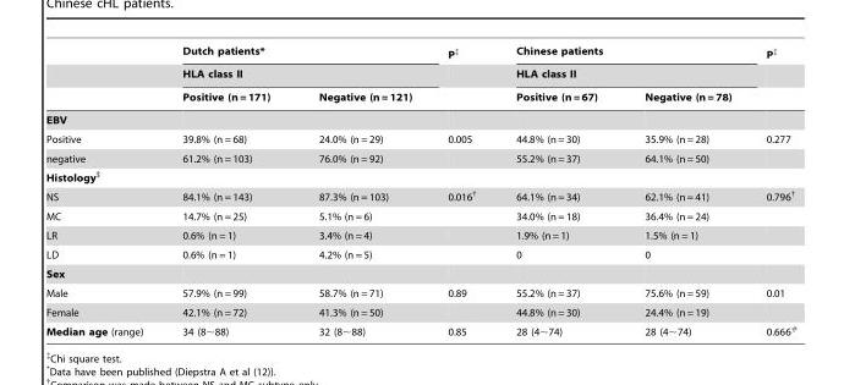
<table><thead><tr><td rowspan="3"></td><td rowspan="2" colspan="2">Dutch patients* HLA class II</td><td rowspan="3">P‡</td><td rowspan="2" colspan="2">Chinese patients HLA class II</td><td rowspan="3">P‡</td></tr><tr></tr><tr><td>Positive (n = 171)</td><td>Negative (n = 121)</td><td>Positive (n = 67)</td><td>Negative (n = 78)</td></tr></thead><tbody><tr><td colspan="7">EBV</td></tr><tr><td>Positive</td><td>39.8% (n = 68)</td><td>24.0% (n = 29)</td><td>0.005</td><td>44.8% (n = 30)</td><td>35.9% (n = 28)</td><td>0.277</td></tr><tr><td>negative</td><td>61.2% (n = 103)</td><td>76.0% (n = 92)</td><td></td><td>55.2% (n = 37)</td><td>64.1% (n = 50)</td><td></td></tr><tr><td colspan="7">Histology$</td></tr><tr><td>NS</td><td>84.1% (n = 143)</td><td>87.3% (n = 103)</td><td>0.016†</td><td>64.1% (n = 34)</td><td>62.1% (n = 41)</td><td>0.796†</td></tr><tr><td>MC</td><td>14.7% (n = 25)</td><td>5.1% (n = 6)</td><td></td><td>34.0% (n = 18)</td><td>36.4% (n = 24)</td><td></td></tr><tr><td>LR</td><td>0.6% (n = 1)</td><td>3.4% (n = 4)</td><td></td><td>1.9% (n = 1)</td><td>1.5% (n = 1)</td><td></td></tr><tr><td>LD</td><td>0.6% (n = 1)</td><td>4.2% (n = 5)</td><td></td><td>0</td><td>0</td><td></td></tr><tr><td colspan="7">Sex</td></tr><tr><td>Male</td><td>57.9% (n = 99)</td><td>58.7% (n = 71)</td><td>0.89</td><td>55.2% (n = 37)</td><td>75.6% (n = 59)</td><td>0.01</td></tr><tr><td>Female</td><td>42.1% (n = 72)</td><td>41.3% (n = 50)</td><td></td><td>44.8% (n = 30)</td><td>24.4% (n = 19)</td><td></td></tr><tr><td>Median age (range)</td><td>34 (8∼88)</td><td>32 (8∼88)</td><td>0.85</td><td>28 (4∼74)</td><td>28 (4∼74)</td><td>0.666#</td></tr></tbody></table>